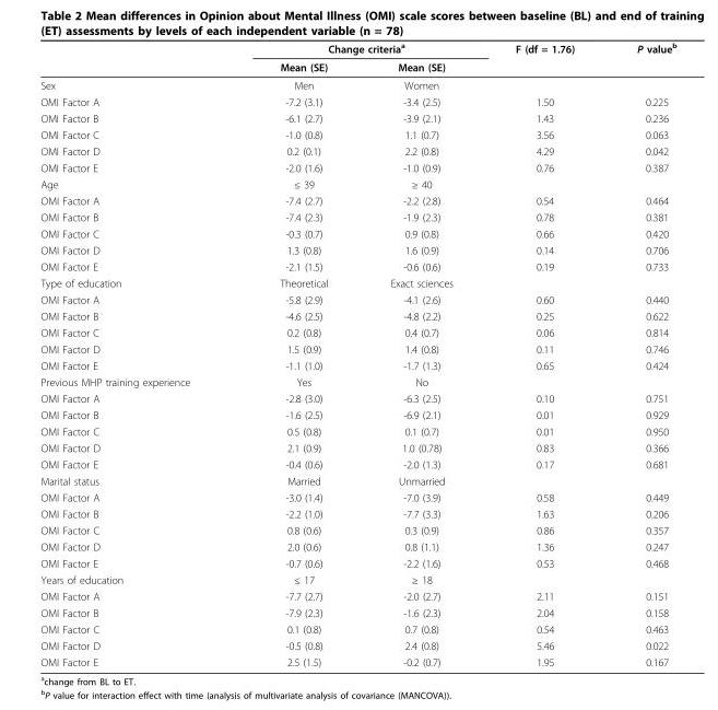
<table><thead><tr><td rowspan="2"></td><td colspan="2">Change criteria<sup>a</sup></td><td rowspan="2">F (df = 1.76)</td><td rowspan="2">P value<sup>b</sup></td></tr><tr><td>Mean (SE)</td><td>Mean (SE)</td></tr></thead><tbody><tr><td>Sex</td><td>Men</td><td>Women</td><td></td><td></td></tr><tr><td>OMI Factor A</td><td>-7.2 (3.1)</td><td>-3.4 (2.5)</td><td>1.50</td><td>0.225</td></tr><tr><td>OMI Factor B</td><td>-6.1 (2.7)</td><td>-3.9 (2.1)</td><td>1.43</td><td>0.236</td></tr><tr><td>OMI Factor C</td><td>-1.0 (0.8)</td><td>1.1 (0.7)</td><td>3.56</td><td>0.063</td></tr><tr><td>OMI Factor D</td><td>0.2 (0.1)</td><td>2.2 (0.8)</td><td>4.29</td><td>0.042</td></tr><tr><td>OMI Factor E</td><td>-2.0 (1.6)</td><td>-1.0 (0.9)</td><td>0.76</td><td>0.387</td></tr><tr><td>Age</td><td>≤ 39</td><td>≥ 40</td><td></td><td></td></tr><tr><td>OMI Factor A</td><td>-7.4 (2.7)</td><td>-2.2 (2.8)</td><td>0.54</td><td>0.464</td></tr><tr><td>OMI Factor B</td><td>-7.4 (2.3)</td><td>-1.9 (2.3)</td><td>0.78</td><td>0.381</td></tr><tr><td>OMI Factor C</td><td>-0.3 (0.7)</td><td>0.9 (0.8)</td><td>0.66</td><td>0.420</td></tr><tr><td>OMI Factor D</td><td>1.3 (0.8)</td><td>1.6 (0.9)</td><td>0.14</td><td>0.706</td></tr><tr><td>OMI Factor E</td><td>-2.1 (1.5)</td><td>-0.6 (0.6)</td><td>0.19</td><td>0.733</td></tr><tr><td>Type of education</td><td>Theoretical</td><td>Exact sciences</td><td></td><td></td></tr><tr><td>OMI Factor A</td><td>-5.8 (2.9)</td><td>-4.1 (2.6)</td><td>0.60</td><td>0.440</td></tr><tr><td>OMI Factor B</td><td>-4.6 (2.5)</td><td>-4.8 (2.2)</td><td>0.25</td><td>0.622</td></tr><tr><td>OMI Factor C</td><td>0.2 (0.8)</td><td>0.4 (0.7)</td><td>0.06</td><td>0.814</td></tr><tr><td>OMI Factor D</td><td>1.5 (0.9)</td><td>1.4 (0.8)</td><td>0.11</td><td>0.746</td></tr><tr><td>OMI Factor E</td><td>-1.1 (1.0)</td><td>-1.7 (1.3)</td><td>0.65</td><td>0.424</td></tr><tr><td>Previous MHP training experience</td><td>Yes</td><td>No</td><td></td><td></td></tr><tr><td>OMI Factor A</td><td>-2.8 (3.0)</td><td>-6.3 (2.5)</td><td>0.10</td><td>0.751</td></tr><tr><td>OMI Factor B</td><td>-1.6 (2.5)</td><td>-6.9 (2.1)</td><td>0.01</td><td>0.929</td></tr><tr><td>OMI Factor C</td><td>0.5 (0.8)</td><td>0.1 (0.7)</td><td>0.01</td><td>0.950</td></tr><tr><td>OMI Factor D</td><td>2.1 (0.9)</td><td>1.0 (0.78)</td><td>0.83</td><td>0.366</td></tr><tr><td>OMI Factor E</td><td>-0.4 (0.6)</td><td>-2.0 (1.3)</td><td>0.17</td><td>0.681</td></tr><tr><td>Marital status</td><td>Married</td><td>Unmarried</td><td></td><td></td></tr><tr><td>OMI Factor A</td><td>-3.0 (1.4)</td><td>-7.0 (3.9)</td><td>0.58</td><td>0.449</td></tr><tr><td>OMI Factor B</td><td>-2.2 (1.0)</td><td>-7.7 (3.3)</td><td>1.63</td><td>0.206</td></tr><tr><td>OMI Factor C</td><td>0.8 (0.6)</td><td>0.3 (0.9)</td><td>0.86</td><td>0.357</td></tr><tr><td>OMI Factor D</td><td>2.0 (0.6)</td><td>0.8 (1.1)</td><td>1.36</td><td>0.247</td></tr><tr><td>OMI Factor E</td><td>-0.7 (0.6)</td><td>-2.2 (1.6)</td><td>0.53</td><td>0.468</td></tr><tr><td>Years of education</td><td>≤ 17</td><td>≥ 18</td><td></td><td></td></tr><tr><td>OMI Factor A</td><td>-7.7 (2.7)</td><td>-2.0 (2.7)</td><td>2.11</td><td>0.151</td></tr><tr><td>OMI Factor B</td><td>-7.9 (2.3)</td><td>-1.6 (2.3)</td><td>2.04</td><td>0.158</td></tr><tr><td>OMI Factor C</td><td>0.1 (0.8)</td><td>0.7 (0.8)</td><td>0.54</td><td>0.463</td></tr><tr><td>OMI Factor D</td><td>-0.5 (0.8)</td><td>2.4 (0.8)</td><td>5.46</td><td>0.022</td></tr><tr><td>OMI Factor E</td><td>2.5 (1.5)</td><td>-0.2 (0.7)</td><td>1.95</td><td>0.167</td></tr></tbody></table>